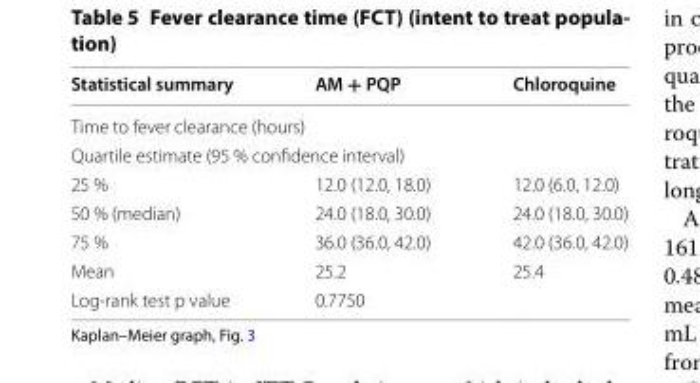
<table><thead><tr><td>Statistical summary</td><td>AM + PQP</td><td>Chloroquine</td></tr></thead><tbody><tr><td colspan="3">Time to fever clearance (hours)</td></tr><tr><td colspan="3">Quartile estimate (95 % confidence interval)</td></tr><tr><td>25 %</td><td>12.0 (12.0, 18.0)</td><td>12.0 (6.0, 12.0)</td></tr><tr><td>50 % (median)</td><td>24.0 (18.0, 30.0)</td><td>24.0 (18.0, 30.0)</td></tr><tr><td>75 %</td><td>36.0 (36.0, 42.0)</td><td>42.0 (36.0, 42.0)</td></tr><tr><td>Mean</td><td>25.2</td><td>25.4</td></tr><tr><td>Log-rank test p value</td><td colspan="2">0.7750</td></tr></tbody></table>